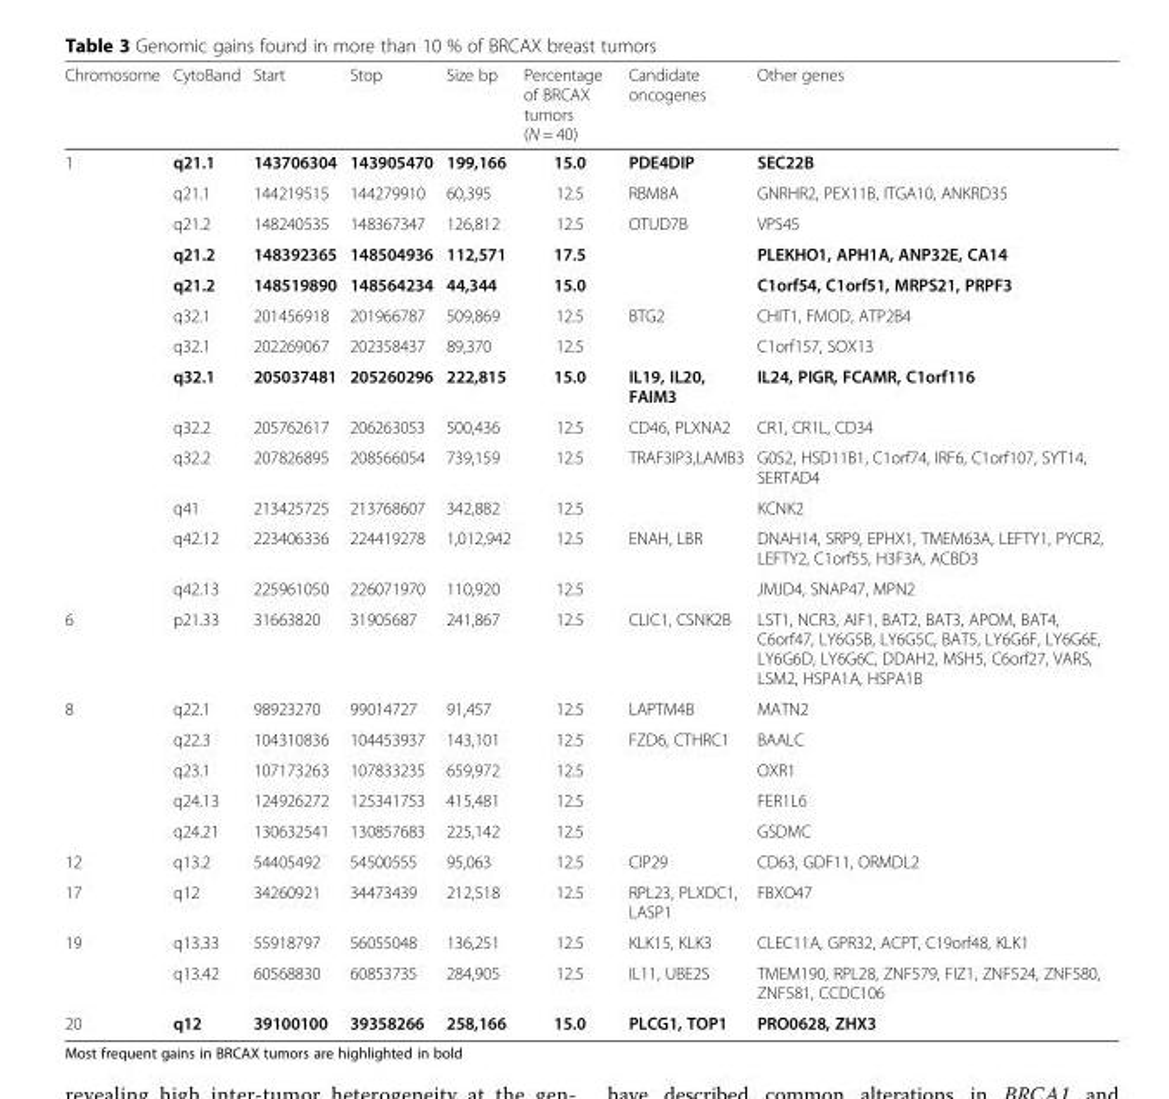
<table><thead><tr><td>Chromosome</td><td>CytoBand</td><td>Start</td><td>Stop</td><td>Size bp</td><td>Percentage of BRCAX tumors (N = 40)</td><td>Candidate oncogenes</td><td>Other genes</td></tr></thead><tbody><tr><td rowspan="13">1</td><td>q21.1</td><td>143706304</td><td>143905470</td><td>199,166</td><td>15.0</td><td>PDE4DIP</td><td>SEC22B</td></tr><tr><td>q21.1</td><td>144219515</td><td>144279910</td><td>60,395</td><td>12.5</td><td>RBM8A</td><td>GNRHR2, PEX11B, ITGA10, ANKRD35</td></tr><tr><td>q21.2</td><td>148240535</td><td>148367347</td><td>126,812</td><td>12.5</td><td>OTUD7B</td><td>VPS45</td></tr><tr><td>q21.2</td><td>148392365</td><td>148504936</td><td>112,571</td><td>17.5</td><td></td><td>PLEKHO1, APH1A, ANP32E, CA14</td></tr><tr><td>q21.2</td><td>148519890</td><td>148564234</td><td>44,344</td><td>15.0</td><td></td><td>C1orf54, C1orf51, MRPS21, PRPF3</td></tr><tr><td>q32.1</td><td>201456918</td><td>201966787</td><td>509,869</td><td>12.5</td><td>BTG2</td><td>CHIT1, FMOD, ATP2B4</td></tr><tr><td>q32.1</td><td>202269067</td><td>202358437</td><td>89,370</td><td>12.5</td><td></td><td>C1orf157, SOX13</td></tr><tr><td>q32.1</td><td>205037481</td><td>205260296</td><td>222,815</td><td>15.0</td><td>IL19, IL20, FAIM3</td><td>IL24, PIGR, FCAMR, C1orf116</td></tr><tr><td>q32.2</td><td>205762617</td><td>206263053</td><td>500,436</td><td>12.5</td><td>CD46, PLXNA2</td><td>CR1, CR1L, CD34</td></tr><tr><td>q32.2</td><td>207826895</td><td>208566054</td><td>739,159</td><td>12.5</td><td>TRAF3IP3,LAMB3</td><td>G0S2, HSD11B1, C1orf74, IRF6, C1orf107, SYT14, SERTAD4</td></tr><tr><td>q41</td><td>213425725</td><td>213768607</td><td>342,882</td><td>12.5</td><td></td><td>KCNK2</td></tr><tr><td>q42.12</td><td>223406336</td><td>224419278</td><td>1,012,942</td><td>12.5</td><td>ENAH, LBR</td><td>DNAH14, SRP9, EPHX1, TMEM63A, LEFTY1, PYCR2, LEFTY2, C1orf55, H3F3A, ACBD3</td></tr><tr><td>q42.13</td><td>225961050</td><td>226071970</td><td>110,920</td><td>12.5</td><td></td><td>JMJD4, SNAP47, MPN2</td></tr><tr><td>6</td><td>p21.33</td><td>31663820</td><td>31905687</td><td>241,867</td><td>12.5</td><td>CLIC1, CSNK2B</td><td>LST1, NCR3, AIF1, BAT2, BAT3, APOM, BAT4, C6orf47, LY6G5B, LY6G5C, BAT5, LY6G6F, LY6G6E, LY6G6D, LY6G6C, DDAH2, MSH5, C6orf27, VARS, LSM2, HSPA1A, HSPA1B</td></tr><tr><td rowspan="5">8</td><td>q22.1</td><td>98923270</td><td>99014727</td><td>91,457</td><td>12.5</td><td>LAPTM4B</td><td>MATN2</td></tr><tr><td>q22.3</td><td>104310836</td><td>104453937</td><td>143,101</td><td>12.5</td><td>FZD6, CTHRC1</td><td>BAALC</td></tr><tr><td>q23.1</td><td>107173263</td><td>107833235</td><td>659,972</td><td>12.5</td><td></td><td>OXR1</td></tr><tr><td>q24.13</td><td>124926272</td><td>125341753</td><td>415,481</td><td>12.5</td><td></td><td>FER1L6</td></tr><tr><td>q24.21</td><td>130632541</td><td>130857683</td><td>225,142</td><td>12.5</td><td></td><td>GSDMC</td></tr><tr><td>12</td><td>q13.2</td><td>54405492</td><td>54500555</td><td>95,063</td><td>12.5</td><td>CIP29</td><td>CD63, GDF11, ORMDL2</td></tr><tr><td>17</td><td>q12</td><td>34260921</td><td>34473439</td><td>212,518</td><td>12.5</td><td>RPL23, PLXDC1, LASP1</td><td>FBXO47</td></tr><tr><td rowspan="2">19</td><td>q13.33</td><td>55918797</td><td>56055048</td><td>136,251</td><td>12.5</td><td>KLK15, KLK3</td><td>CLEC11A, GPR32, ACPT, C19orf48, KLK1</td></tr><tr><td>q13.42</td><td>60568830</td><td>60853735</td><td>284,905</td><td>12.5</td><td>IL11, UBE2S</td><td>TMEM190, RPL28, ZNF579, FIZ1, ZNF524, ZNF580, ZNF581, CCDC106</td></tr><tr><td>20</td><td>q12</td><td>39100100</td><td>39358266</td><td>258,166</td><td>15.0</td><td>PLCG1, TOP1</td><td>PRO0628, ZHX3</td></tr></tbody></table>